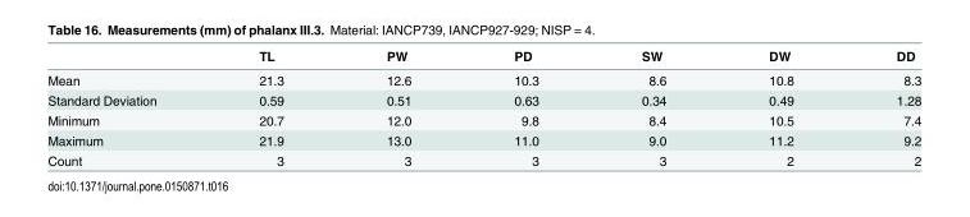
<table><thead><tr><td></td><td>TL</td><td>PW</td><td>PD</td><td>SW</td><td>DW</td><td>DD</td></tr></thead><tbody><tr><td>Mean</td><td>21.3</td><td>12.6</td><td>10.3</td><td>8.6</td><td>10.8</td><td>8.3</td></tr><tr><td>Standard Deviation</td><td>0.59</td><td>0.51</td><td>0.63</td><td>0.34</td><td>0.49</td><td>1.28</td></tr><tr><td>Minimum</td><td>20.7</td><td>12.0</td><td>9.8</td><td>8.4</td><td>10.5</td><td>7.4</td></tr><tr><td>Maximum</td><td>21.9</td><td>13.0</td><td>11.0</td><td>9.0</td><td>11.2</td><td>9.2</td></tr><tr><td>Count</td><td>3</td><td>3</td><td>3</td><td>3</td><td>2</td><td>2</td></tr></tbody></table>